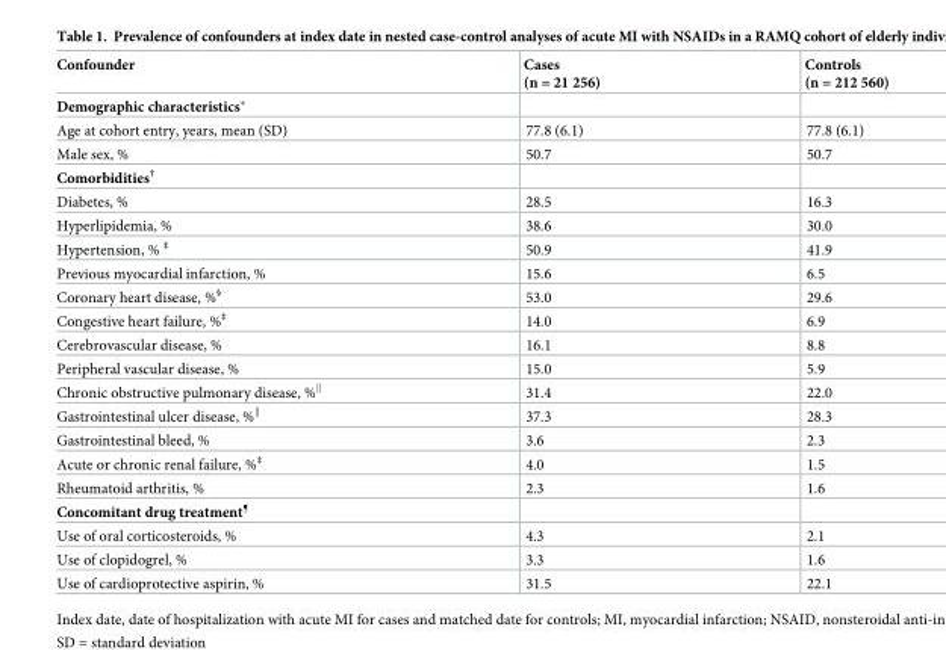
<table><thead><tr><td>Confounder</td><td>Cases (n = 21 256)</td><td>Controls (n = 212 560)</td></tr></thead><tbody><tr><td colspan="3">Demographic characteristics*</td></tr><tr><td>Age at cohort entry, years, mean (SD)</td><td>77.8 (6.1)</td><td>77.8 (6.1)</td></tr><tr><td>Male sex, %</td><td>50.7</td><td>50.7</td></tr><tr><td colspan="3">Comorbidities<sup>†</sup></td></tr><tr><td>Diabetes, %</td><td>28.5</td><td>16.3</td></tr><tr><td>Hyperlipidemia, %</td><td>38.6</td><td>30.0</td></tr><tr><td>Hypertension, % <sup>‡</sup></td><td>50.9</td><td>41.9</td></tr><tr><td>Previous myocardial infarction, %</td><td>15.6</td><td>6.5</td></tr><tr><td>Coronary heart disease, %<sup>§</sup></td><td>53.0</td><td>29.6</td></tr><tr><td>Congestive heart failure, %<sup>‡</sup></td><td>14.0</td><td>6.9</td></tr><tr><td>Cerebrovascular disease, %</td><td>16.1</td><td>8.8</td></tr><tr><td>Peripheral vascular disease, %</td><td>15.0</td><td>5.9</td></tr><tr><td>Chronic obstructive pulmonary disease, %<sup>‖</sup></td><td>31.4</td><td>22.0</td></tr><tr><td>Gastrointestinal ulcer disease, %<sup>‖</sup></td><td>37.3</td><td>28.3</td></tr><tr><td>Gastrointestinal bleed, %</td><td>3.6</td><td>2.3</td></tr><tr><td>Acute or chronic renal failure, %<sup>‡</sup></td><td>4.0</td><td>1.5</td></tr><tr><td>Rheumatoid arthritis, %</td><td>2.3</td><td>1.6</td></tr><tr><td colspan="3">Concomitant drug treatment<sup>¶</sup></td></tr><tr><td>Use of oral corticosteroids, %</td><td>4.3</td><td>2.1</td></tr><tr><td>Use of clopidogrel, %</td><td>3.3</td><td>1.6</td></tr><tr><td>Use of cardioprotective aspirin, %</td><td>31.5</td><td>22.1</td></tr></tbody></table>